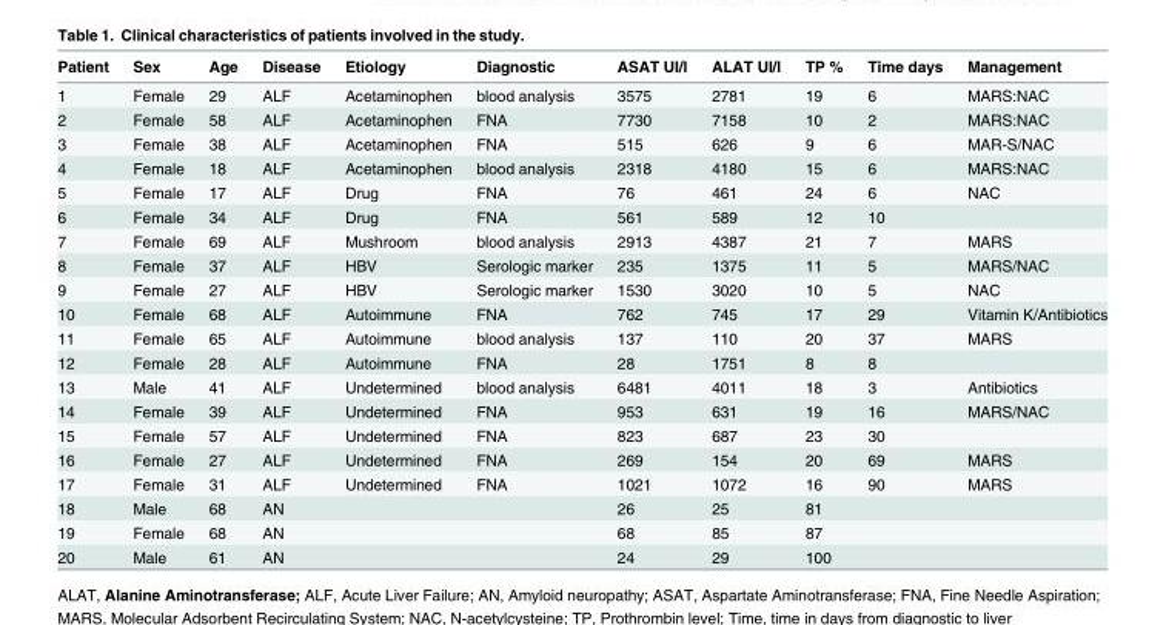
<table><thead><tr><td>Patient</td><td>Sex</td><td>Age</td><td>Disease</td><td>Etiology</td><td>Diagnostic</td><td>ASAT UI/l</td><td>ALAT UI/l</td><td>TP %</td><td>Time days</td><td>Management</td></tr></thead><tbody><tr><td>1</td><td>Female</td><td>29</td><td>ALF</td><td>Acetaminophen</td><td>blood analysis</td><td>3575</td><td>2781</td><td>19</td><td>6</td><td>MARS:NAC</td></tr><tr><td>2</td><td>Female</td><td>58</td><td>ALF</td><td>Acetaminophen</td><td>FNA</td><td>7730</td><td>7158</td><td>10</td><td>2</td><td>MARS:NAC</td></tr><tr><td>3</td><td>Female</td><td>38</td><td>ALF</td><td>Acetaminophen</td><td>FNA</td><td>515</td><td>626</td><td>9</td><td>6</td><td>MAR-S/NAC</td></tr><tr><td>4</td><td>Female</td><td>18</td><td>ALF</td><td>Acetaminophen</td><td>blood analysis</td><td>2318</td><td>4180</td><td>15</td><td>6</td><td>MARS:NAC</td></tr><tr><td>5</td><td>Female</td><td>17</td><td>ALF</td><td>Drug</td><td>FNA</td><td>76</td><td>461</td><td>24</td><td>6</td><td>NAC</td></tr><tr><td>6</td><td>Female</td><td>34</td><td>ALF</td><td>Drug</td><td>FNA</td><td>561</td><td>589</td><td>12</td><td>10</td><td></td></tr><tr><td>7</td><td>Female</td><td>69</td><td>ALF</td><td>Mushroom</td><td>blood analysis</td><td>2913</td><td>4387</td><td>21</td><td>7</td><td>MARS</td></tr><tr><td>8</td><td>Female</td><td>37</td><td>ALF</td><td>HBV</td><td>Serologic marker</td><td>235</td><td>1375</td><td>11</td><td>5</td><td>MARS/NAC</td></tr><tr><td>9</td><td>Female</td><td>27</td><td>ALF</td><td>HBV</td><td>Serologic marker</td><td>1530</td><td>3020</td><td>10</td><td>5</td><td>NAC</td></tr><tr><td>10</td><td>Female</td><td>68</td><td>ALF</td><td>Autoimmune</td><td>FNA</td><td>762</td><td>745</td><td>17</td><td>29</td><td>Vitamin K/Antibiotics</td></tr><tr><td>11</td><td>Female</td><td>65</td><td>ALF</td><td>Autoimmune</td><td>blood analysis</td><td>137</td><td>110</td><td>20</td><td>37</td><td>MARS</td></tr><tr><td>12</td><td>Female</td><td>28</td><td>ALF</td><td>Autoimmune</td><td>FNA</td><td>28</td><td>1751</td><td>8</td><td>8</td><td></td></tr><tr><td>13</td><td>Male</td><td>41</td><td>ALF</td><td>Undetermined</td><td>blood analysis</td><td>6481</td><td>4011</td><td>18</td><td>3</td><td>Antibiotics</td></tr><tr><td>14</td><td>Female</td><td>39</td><td>ALF</td><td>Undetermined</td><td>FNA</td><td>953</td><td>631</td><td>19</td><td>16</td><td>MARS/NAC</td></tr><tr><td>15</td><td>Female</td><td>57</td><td>ALF</td><td>Undetermined</td><td>FNA</td><td>823</td><td>687</td><td>23</td><td>30</td><td></td></tr><tr><td>16</td><td>Female</td><td>27</td><td>ALF</td><td>Undetermined</td><td>FNA</td><td>269</td><td>154</td><td>20</td><td>69</td><td>MARS</td></tr><tr><td>17</td><td>Female</td><td>31</td><td>ALF</td><td>Undetermined</td><td>FNA</td><td>1021</td><td>1072</td><td>16</td><td>90</td><td>MARS</td></tr><tr><td>18</td><td>Male</td><td>68</td><td>AN</td><td></td><td></td><td>26</td><td>25</td><td>81</td><td></td><td></td></tr><tr><td>19</td><td>Female</td><td>68</td><td>AN</td><td></td><td></td><td>68</td><td>85</td><td>87</td><td></td><td></td></tr><tr><td>20</td><td>Male</td><td>61</td><td>AN</td><td></td><td></td><td>24</td><td>29</td><td>100</td><td></td><td></td></tr></tbody></table>